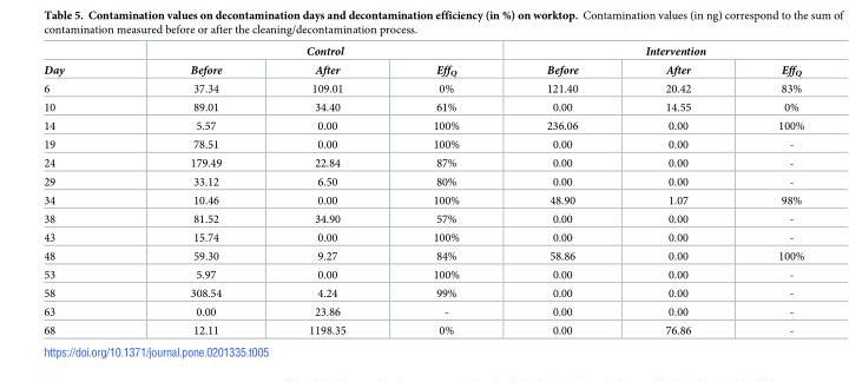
<table><thead><tr><td rowspan="2">Day</td><td colspan="3">Control</td><td colspan="3">Intervention</td></tr><tr><td>Before</td><td>After</td><td>Eff<sub>Q</sub></td><td>Before</td><td>After</td><td>Eff<sub>Q</sub></td></tr></thead><tbody><tr><td>6</td><td>37.34</td><td>109.01</td><td>0%</td><td>121.40</td><td>20.42</td><td>83%</td></tr><tr><td>10</td><td>89.01</td><td>34.40</td><td>61%</td><td>0.00</td><td>14.55</td><td>0%</td></tr><tr><td>14</td><td>5.57</td><td>0.00</td><td>100%</td><td>236.06</td><td>0.00</td><td>100%</td></tr><tr><td>19</td><td>78.51</td><td>0.00</td><td>100%</td><td>0.00</td><td>0.00</td><td>-</td></tr><tr><td>24</td><td>179.49</td><td>22.84</td><td>87%</td><td>0.00</td><td>0.00</td><td>-</td></tr><tr><td>29</td><td>33.12</td><td>6.50</td><td>80%</td><td>0.00</td><td>0.00</td><td>-</td></tr><tr><td>34</td><td>10.46</td><td>0.00</td><td>100%</td><td>48.90</td><td>1.07</td><td>98%</td></tr><tr><td>38</td><td>81.52</td><td>34.90</td><td>57%</td><td>0.00</td><td>0.00</td><td>-</td></tr><tr><td>43</td><td>15.74</td><td>0.00</td><td>100%</td><td>0.00</td><td>0.00</td><td>-</td></tr><tr><td>48</td><td>59.30</td><td>9.27</td><td>84%</td><td>58.86</td><td>0.00</td><td>100%</td></tr><tr><td>53</td><td>5.97</td><td>0.00</td><td>100%</td><td>0.00</td><td>0.00</td><td>-</td></tr><tr><td>58</td><td>308.54</td><td>4.24</td><td>99%</td><td>0.00</td><td>0.00</td><td>-</td></tr><tr><td>63</td><td>0.00</td><td>23.86</td><td>-</td><td>0.00</td><td>0.00</td><td>-</td></tr><tr><td>68</td><td>12.11</td><td>1198.35</td><td>0%</td><td>0.00</td><td>76.86</td><td>-</td></tr></tbody></table>